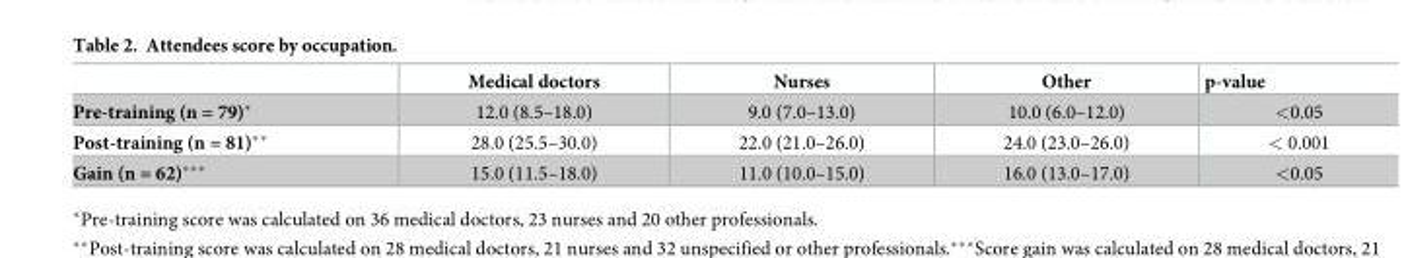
<table><thead><tr><td></td><td>Medical doctors</td><td>Nurses</td><td>Other</td><td>p-value</td></tr></thead><tbody><tr><td>Pre-training (n = 79)*</td><td>12.0 (8.5–18.0)</td><td>9.0 (7.0–13.0)</td><td>10.0 (6.0–12.0)</td><td>&lt;0.05</td></tr><tr><td>Post-training (n = 81)**</td><td>28.0 (25.5–30.0)</td><td>22.0 (21.0–26.0)</td><td>24.0 (23.0–26.0)</td><td>&lt; 0.001</td></tr><tr><td>Gain (n = 62)***</td><td>15.0 (11.5–18.0)</td><td>11.0 (10.0–15.0)</td><td>16.0 (13.0–17.0)</td><td>&lt;0.05</td></tr></tbody></table>